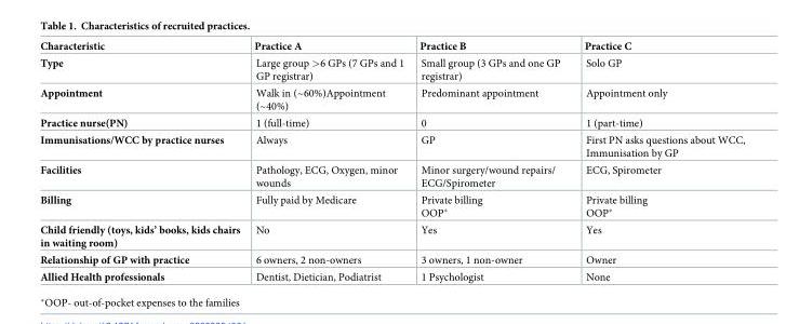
<table><thead><tr><td>Characteristic</td><td>Practice A</td><td>Practice B</td><td>Practice C</td></tr></thead><tbody><tr><td>Type</td><td>Large group &gt;6 GPs (7 GPs and 1 GP registrar)</td><td>Small group (3 GPs and one GP registrar)</td><td>Solo GP</td></tr><tr><td>Appointment</td><td>Walk in (~60%)Appointment (~40%)</td><td>Predominant appointment</td><td>Appointment only</td></tr><tr><td>Practice nurse(PN)</td><td>1 (full-time)</td><td>0</td><td>1 (part-time)</td></tr><tr><td>Immunisations/WCC by practice nurses</td><td>Always</td><td>GP</td><td>First PN asks questions about WCC, Immunisation by GP</td></tr><tr><td>Facilities</td><td>Pathology, ECG, Oxygen, minor wounds</td><td>Minor surgery/wound repairs/ ECG/Spirometer</td><td>ECG, Spirometer</td></tr><tr><td>Billing</td><td>Fully paid by Medicare</td><td>Private billing OOP*</td><td>Private billing OOP*</td></tr><tr><td>Child friendly (toys, kids’ books, kids chairs in waiting room)</td><td>No</td><td>Yes</td><td>Yes</td></tr><tr><td>Relationship of GP with practice</td><td>6 owners, 2 non-owners</td><td>3 owners, 1 non-owner</td><td>Owner</td></tr><tr><td>Allied Health professionals</td><td>Dentist, Dietician, Podiatrist</td><td>1 Psychologist</td><td>None</td></tr></tbody></table>